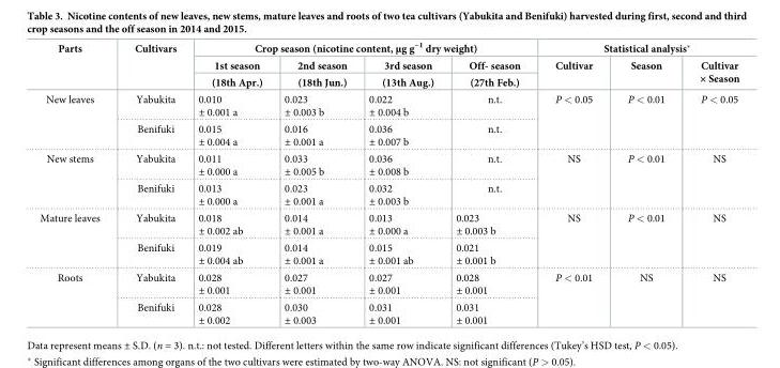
<table><thead><tr><td rowspan="3">Parts</td><td rowspan="3">Cultivars</td><td colspan="4">Crop season (nicotine content, μg g<sup>−1</sup> dry weight)</td><td colspan="3">Statistical analysis*</td></tr><tr><td rowspan="2">1st season (18th Apr.)</td><td rowspan="2">2nd season (18th Jun.)</td><td rowspan="2">3rd season (13th Aug.)</td><td rowspan="2">Off- season (27th Feb.)</td><td rowspan="2">Cultivar</td><td rowspan="2">Season</td><td rowspan="2">Cultivar × Season</td></tr><tr></tr></thead><tbody><tr><td rowspan="2">New leaves</td><td>Yabukita</td><td>0.010 ± 0.001 a</td><td>0.023 ± 0.003 b</td><td>0.022 ± 0.004 b</td><td>n.t.</td><td rowspan="2">P &lt; 0.05</td><td rowspan="2">P &lt; 0.01</td><td rowspan="2">P &lt; 0.05</td></tr><tr><td>Benifuki</td><td>0.015 ± 0.004 a</td><td>0.016 ± 0.001 a</td><td>0.036 ± 0.007 b</td><td>n.t.</td></tr><tr><td rowspan="2">New stems</td><td>Yabukita</td><td>0.011 ± 0.000 a</td><td>0.033 ± 0.005 b</td><td>0.036 ± 0.008 b</td><td>n.t.</td><td rowspan="2">NS</td><td rowspan="2">P &lt; 0.01</td><td rowspan="2">NS</td></tr><tr><td>Benifuki</td><td>0.013 ± 0.000 a</td><td>0.023 ± 0.001 a</td><td>0.032 ± 0.003 b</td><td>n.t.</td></tr><tr><td rowspan="2">Mature leaves</td><td>Yabukita</td><td>0.018 ± 0.002 ab</td><td>0.014 ± 0.001 a</td><td>0.013 ± 0.000 a</td><td>0.023 ± 0.003 b</td><td rowspan="2">NS</td><td rowspan="2">P &lt; 0.01</td><td rowspan="2">NS</td></tr><tr><td>Benifuki</td><td>0.019 ± 0.004 ab</td><td>0.014 ± 0.001 a</td><td>0.015 ± 0.001 ab</td><td>0.021 ± 0.001 b</td></tr><tr><td rowspan="2">Roots</td><td>Yabukita</td><td>0.028 ± 0.001</td><td>0.027 ± 0.001</td><td>0.027 ± 0.001</td><td>0.028 ± 0.001</td><td rowspan="2">P &lt; 0.01</td><td rowspan="2">NS</td><td rowspan="2">NS</td></tr><tr><td>Benifuki</td><td>0.028 ± 0.002</td><td>0.030 ± 0.003</td><td>0.031 ± 0.001</td><td>0.031 ± 0.001</td></tr></tbody></table>